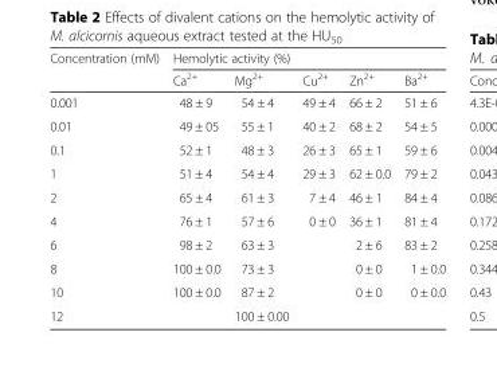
<table><thead><tr><td rowspan="2">Concentration (mM)</td><td colspan="5">Hemolytic activity (%)</td></tr><tr><td>Ca<sup>2+</sup></td><td>Mg<sup>2+</sup></td><td>Cu<sup>2+</sup></td><td>Zn<sup>2+</sup></td><td>Ba<sup>2+</sup></td></tr></thead><tbody><tr><td>0.001</td><td>48 ± 9</td><td>54 ± 4</td><td>49 ± 4</td><td>66 ± 2</td><td>51 ± 6</td></tr><tr><td>0.01</td><td>49 ± 05</td><td>55 ± 1</td><td>40 ± 2</td><td>68 ± 2</td><td>54 ± 5</td></tr><tr><td>0.1</td><td>52 ± 1</td><td>48 ± 3</td><td>26 ± 3</td><td>65 ± 1</td><td>59 ± 6</td></tr><tr><td>1</td><td>51 ± 4</td><td>54 ± 4</td><td>29 ± 3</td><td>62 ± 0.0</td><td>79 ± 2</td></tr><tr><td>2</td><td>65 ± 4</td><td>61 ± 3</td><td>7 ± 4</td><td>46 ± 1</td><td>84 ± 4</td></tr><tr><td>4</td><td>76 ± 1</td><td>57 ± 6</td><td>0 ± 0</td><td>36 ± 1</td><td>81 ± 4</td></tr><tr><td>6</td><td>98 ± 2</td><td>63 ± 3</td><td></td><td>2 ± 6</td><td>83 ± 2</td></tr><tr><td>8</td><td>100 ± 0.0</td><td>73 ± 3</td><td></td><td>0 ± 0</td><td>1 ± 0.0</td></tr><tr><td>10</td><td>100 ± 0.0</td><td>87 ± 2</td><td></td><td>0 ± 0</td><td>0 ± 0.0</td></tr><tr><td>12</td><td></td><td>100 ± 0.00</td><td></td><td></td><td></td></tr></tbody></table>